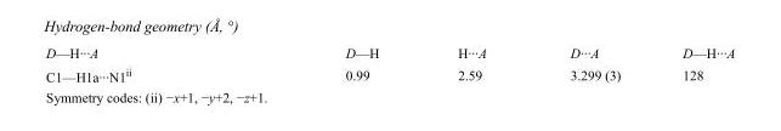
<table><tbody><tr><td>D—H···A</td><td>D—H</td><td>H···A</td><td>D···A</td><td>D—H···A</td></tr><tr><td>C1—H1a···N1<sup>ii</sup></td><td>0.99</td><td>2.59</td><td>3.299 (3)</td><td>128</td></tr></tbody></table>